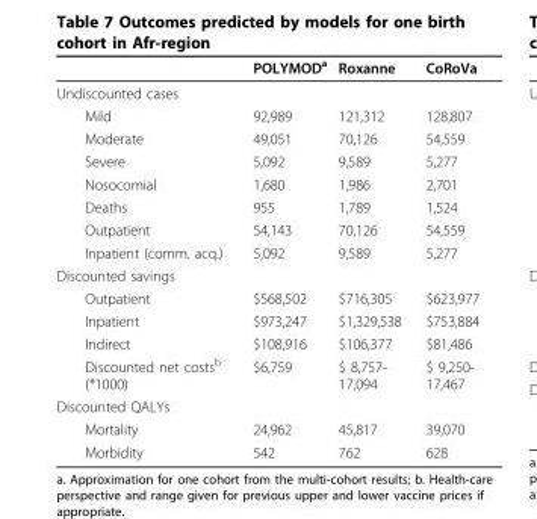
<table><thead><tr><td></td><td>POLYMOD<sup>a</sup></td><td>Roxanne</td><td>CoRoVa</td></tr></thead><tbody><tr><td colspan="4">Undiscounted cases</td></tr><tr><td>Mild</td><td>92,989</td><td>121,312</td><td>128,807</td></tr><tr><td>Moderate</td><td>49,051</td><td>70,126</td><td>54,559</td></tr><tr><td>Severe</td><td>5,092</td><td>9,589</td><td>5,277</td></tr><tr><td>Nosocomial</td><td>1,680</td><td>1,986</td><td>2,701</td></tr><tr><td>Deaths</td><td>955</td><td>1,789</td><td>1,524</td></tr><tr><td>Outpatient</td><td>54,143</td><td>70,126</td><td>54,559</td></tr><tr><td>Inpatient (comm. acq.)</td><td>5,092</td><td>9,589</td><td>5,277</td></tr><tr><td colspan="4">Discounted savings</td></tr><tr><td>Outpatient</td><td>$568,502</td><td>$716,305</td><td>$623,977</td></tr><tr><td>Inpatient</td><td>$973,247</td><td>$1,329,538</td><td>$753,884</td></tr><tr><td>Indirect</td><td>$108,916</td><td>$106,377</td><td>$81,486</td></tr><tr><td>Discounted net costs<sup>b</sup> (*1000)</td><td>$6,759</td><td>$ 8,757- 17,094</td><td>$ 9,250- 17,467</td></tr><tr><td colspan="4">Discounted QALYs</td></tr><tr><td>Mortality</td><td>24,962</td><td>45,817</td><td>39,070</td></tr><tr><td>Morbidity</td><td>542</td><td>762</td><td>628</td></tr></tbody></table>